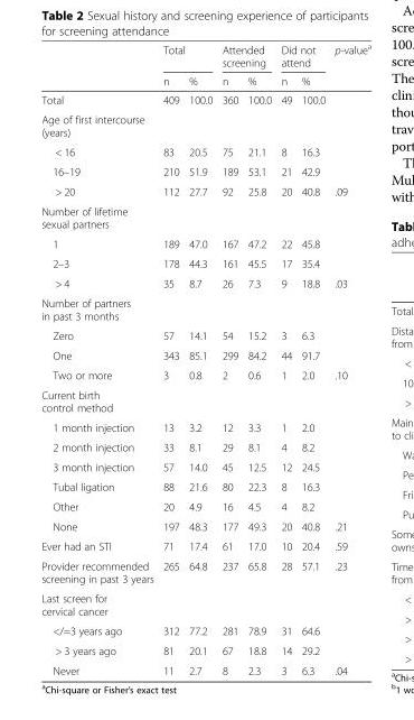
<table><thead><tr><td rowspan="2"></td><td colspan="2">Total</td><td colspan="2">Attended screening</td><td colspan="2">Did not attend</td><td rowspan="2">p-value<sup>a</sup></td></tr><tr><td>n</td><td>%</td><td>n</td><td>%</td><td>n</td><td>%</td></tr></thead><tbody><tr><td>Total</td><td>409</td><td>100.0</td><td>360</td><td>100.0</td><td>49</td><td>100.0</td><td></td></tr><tr><td colspan="8">Age of first intercourse (years)</td></tr><tr><td>&lt; 16</td><td>83</td><td>20.5</td><td>75</td><td>21.1</td><td>8</td><td>16.3</td><td></td></tr><tr><td>16–19</td><td>210</td><td>51.9</td><td>189</td><td>53.1</td><td>21</td><td>42.9</td><td></td></tr><tr><td>&gt; 20</td><td>112</td><td>27.7</td><td>92</td><td>25.8</td><td>20</td><td>40.8</td><td>.09</td></tr><tr><td colspan="8">Number of lifetime sexual partners</td></tr><tr><td>1</td><td>189</td><td>47.0</td><td>167</td><td>47.2</td><td>22</td><td>45.8</td><td></td></tr><tr><td>2–3</td><td>178</td><td>44.3</td><td>161</td><td>45.5</td><td>17</td><td>35.4</td><td></td></tr><tr><td>&gt; 4</td><td>35</td><td>8.7</td><td>26</td><td>7.3</td><td>9</td><td>18.8</td><td>.03</td></tr><tr><td colspan="8">Number of partners in past 3 months</td></tr><tr><td>Zero</td><td>57</td><td>14.1</td><td>54</td><td>15.2</td><td>3</td><td>6.3</td><td></td></tr><tr><td>One</td><td>343</td><td>85.1</td><td>299</td><td>84.2</td><td>44</td><td>91.7</td><td></td></tr><tr><td>Two or more</td><td>3</td><td>0.8</td><td>2</td><td>0.6</td><td>1</td><td>2.0</td><td>.10</td></tr><tr><td colspan="8">Current birth control method</td></tr><tr><td>1 month injection</td><td>13</td><td>3.2</td><td>12</td><td>3.3</td><td>1</td><td>2.0</td><td></td></tr><tr><td>2 month injection</td><td>33</td><td>8.1</td><td>29</td><td>8.1</td><td>4</td><td>8.2</td><td></td></tr><tr><td>3 month injection</td><td>57</td><td>14.0</td><td>45</td><td>12.5</td><td>12</td><td>24.5</td><td></td></tr><tr><td>Tubal ligation</td><td>88</td><td>21.6</td><td>80</td><td>22.3</td><td>8</td><td>16.3</td><td></td></tr><tr><td>Other</td><td>20</td><td>4.9</td><td>16</td><td>4.5</td><td>4</td><td>8.2</td><td></td></tr><tr><td>None</td><td>197</td><td>48.3</td><td>177</td><td>49.3</td><td>20</td><td>40.8</td><td>.21</td></tr><tr><td>Ever had an STI</td><td>71</td><td>17.4</td><td>61</td><td>17.0</td><td>10</td><td>20.4</td><td>.59</td></tr><tr><td>Provider recommended screening in past 3 years</td><td>265</td><td>64.8</td><td>237</td><td>65.8</td><td>28</td><td>57.1</td><td>.23</td></tr><tr><td colspan="8">Last screen for cervical cancer</td></tr><tr><td>&lt;/=3 years ago</td><td>312</td><td>77.2</td><td>281</td><td>78.9</td><td>31</td><td>64.6</td><td></td></tr><tr><td>&gt; 3 years ago</td><td>81</td><td>20.1</td><td>67</td><td>18.8</td><td>14</td><td>29.2</td><td></td></tr><tr><td>Never</td><td>11</td><td>2.7</td><td>8</td><td>2.3</td><td>3</td><td>6.3</td><td>.04</td></tr></tbody></table>